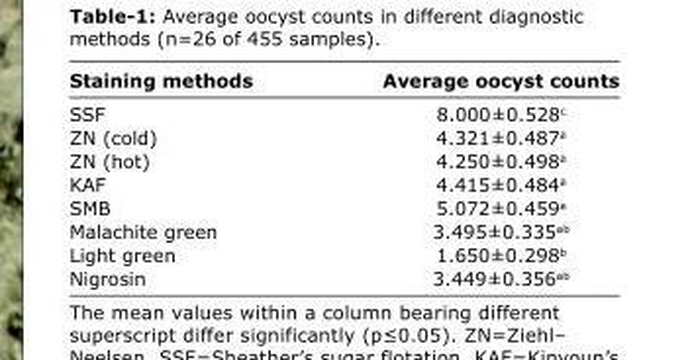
<table><thead><tr><td>Staining methods</td><td>Average oocyst counts</td></tr></thead><tbody><tr><td>SSF</td><td>8.000±0.528<sup>c</sup></td></tr><tr><td>ZN (cold)</td><td>4.321±0.487<sup>a</sup></td></tr><tr><td>ZN (hot)</td><td>4.250±0.498<sup>a</sup></td></tr><tr><td>KAF</td><td>4.415±0.484<sup>a</sup></td></tr><tr><td>SMB</td><td>5.072±0.459<sup>a</sup></td></tr><tr><td>Malachite green</td><td>3.495±0.335<sup>ab</sup></td></tr><tr><td>Light green</td><td>1.650±0.298<sup>b</sup></td></tr><tr><td>Nigrosin</td><td>3.449±0.356<sup>ab</sup></td></tr></tbody></table>